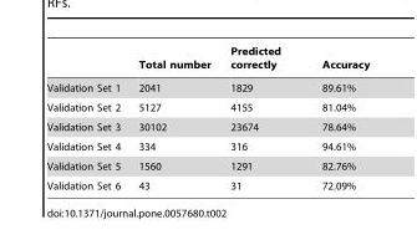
<table><thead><tr><td></td><td>Total number</td><td>Predicted correctly</td><td>Accuracy</td></tr></thead><tbody><tr><td>Validation Set 1</td><td>2041</td><td>1829</td><td>89.61%</td></tr><tr><td>Validation Set 2</td><td>5127</td><td>4155</td><td>81.04%</td></tr><tr><td>Validation Set 3</td><td>30102</td><td>23674</td><td>78.64%</td></tr><tr><td>Validation Set 4</td><td>334</td><td>316</td><td>94.61%</td></tr><tr><td>Validation Set 5</td><td>1560</td><td>1291</td><td>82.76%</td></tr><tr><td>Validation Set 6</td><td>43</td><td>31</td><td>72.09%</td></tr></tbody></table>